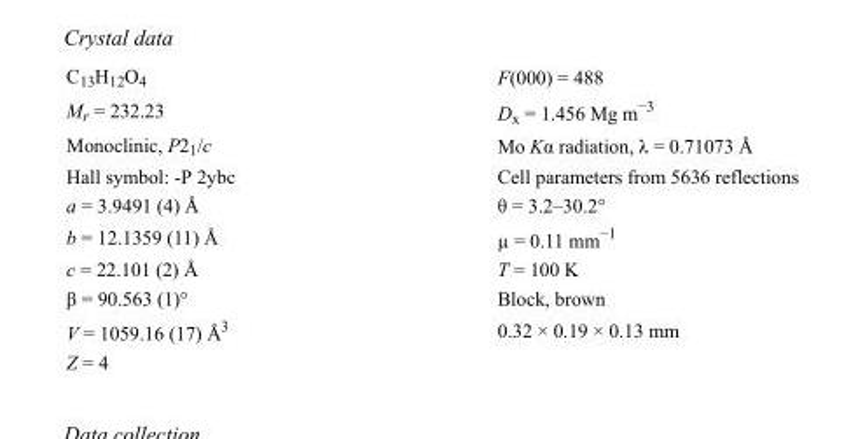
<table><tbody><tr><td>C<sub>13</sub>H<sub>12</sub>O<sub>4</sub></td><td>F(000) = 488</td></tr><tr><td>M<sub>r</sub> = 232.23</td><td>D<sub>x</sub> = 1.456 Mg m<sup>−3</sup></td></tr><tr><td>Monoclinic, P2<sub>1</sub>/c</td><td>Mo Kα radiation, λ = 0.71073 Å</td></tr><tr><td>Hall symbol: -P 2ybc</td><td>Cell parameters from 5636 reflections</td></tr><tr><td>a = 3.9491 (4) Å</td><td>θ = 3.2–30.2°</td></tr><tr><td>b = 12.1359 (11) Å</td><td>µ = 0.11 mm<sup>−1</sup></td></tr><tr><td>c = 22.101 (2) Å</td><td>T = 100 K</td></tr><tr><td>β = 90.563 (1)°</td><td>Block, brown</td></tr><tr><td>V = 1059.16 (17) Å<sup>3</sup></td><td>0.32 × 0.19 × 0.13 mm</td></tr><tr><td>Z = 4</td><td></td></tr></tbody></table>